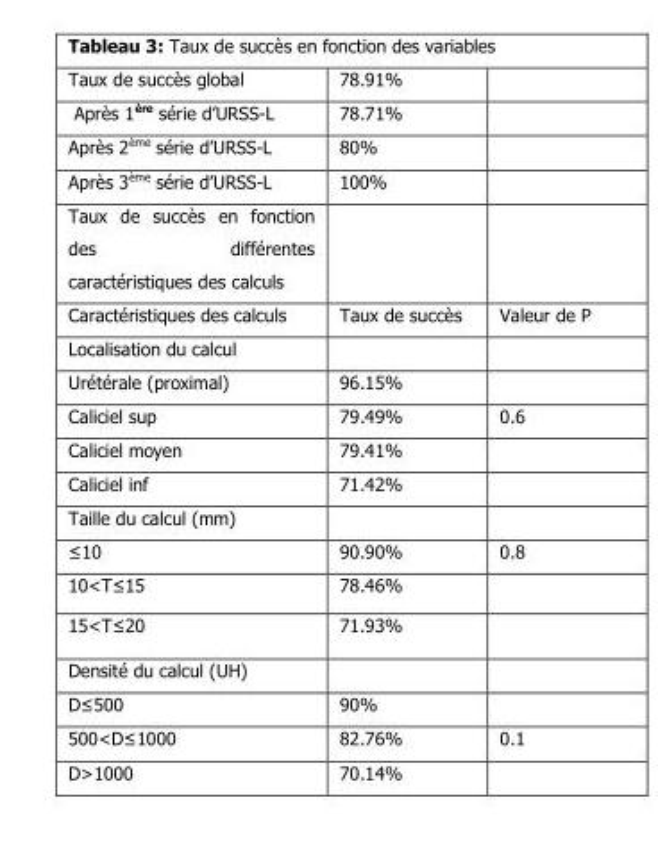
<table><tbody><tr><td>Taux de succès global</td><td>78.91%</td><td></td></tr><tr><td>Après 1<sup>ère</sup> série d’URSS-L</td><td>78.71%</td><td></td></tr><tr><td>Après 2<sup>ème</sup> série d’URSS-L</td><td>80%</td><td></td></tr><tr><td>Après 3<sup>ème</sup> série d’URSS-L</td><td>100%</td><td></td></tr><tr><td colspan="3">Taux de succès en fonction des différentes caractéristiques des calculs</td></tr><tr><td>Caractéristiques des calculs</td><td>Taux de succès</td><td>Valeur de P</td></tr><tr><td colspan="3">Localisation du calcul</td></tr><tr><td>Urétérale (proximal)</td><td>96.15%</td><td></td></tr><tr><td>Caliciel sup</td><td>79.49%</td><td>0.6</td></tr><tr><td>Caliciel moyen</td><td>79.41%</td><td></td></tr><tr><td>Caliciel inf</td><td>71.42%</td><td></td></tr><tr><td colspan="3">Taille du calcul (mm)</td></tr><tr><td>≤10</td><td>90.90%</td><td>0.8</td></tr><tr><td>10&lt;T≤15</td><td>78.46%</td><td></td></tr><tr><td>15&lt;T≤20</td><td>71.93%</td><td></td></tr><tr><td colspan="3">Densité du calcul (UH)</td></tr><tr><td>D≤500</td><td>90%</td><td></td></tr><tr><td>500&lt;D≤1000</td><td>82.76%</td><td>0.1</td></tr><tr><td>D&gt;1000</td><td>70.14%</td><td></td></tr></tbody></table>